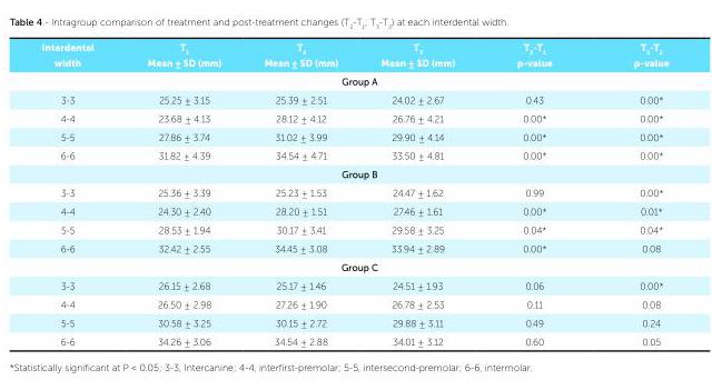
<table><thead><tr><td>Interdental width</td><td>T<sub>1</sub> Mean ± SD (mm)</td><td>T<sub>2</sub> Mean ± SD (mm)</td><td>T<sub>3</sub> Mean ± SD (mm)</td><td>T<sub>2</sub>-T<sub>1</sub> p-value</td><td>T<sub>3</sub>-T<sub>2</sub> p-value</td></tr></thead><tbody><tr><td colspan="6">Group A</td></tr><tr><td>3-3</td><td>25.25 ± 3.15</td><td>25.39 ± 2.51</td><td>24.02 ± 2.67</td><td>0.43</td><td>0.00*</td></tr><tr><td>4-4</td><td>23.68 ± 4.13</td><td>28.12 ± 4.12</td><td>26.76 ± 4.21</td><td>0.00*</td><td>0.00*</td></tr><tr><td>5-5</td><td>27.86 ± 3.74</td><td>31.02 ± 3.99</td><td>29.90 ± 4.14</td><td>0.00*</td><td>0.00*</td></tr><tr><td>6-6</td><td>31.82 ± 4.39</td><td>34.54 ± 4.71</td><td>33.50 ± 4.81</td><td>0.00*</td><td>0.00*</td></tr><tr><td colspan="6">Group B</td></tr><tr><td>3-3</td><td>25.36 ± 3.39</td><td>25.23 ± 1.53</td><td>24.47 ± 1.62</td><td>0.99</td><td>0.00*</td></tr><tr><td>4-4</td><td>24.30 ± 2.40</td><td>28.20 ± 1.51</td><td>27.46 ± 1.61</td><td>0.00*</td><td>0.01*</td></tr><tr><td>5-5</td><td>28.53 ± 1.94</td><td>30.17 ± 3.41</td><td>29.58 ± 3.25</td><td>0.04*</td><td>0.04*</td></tr><tr><td>6-6</td><td>32.42 ± 2.55</td><td>34.45 ± 3.08</td><td>33.94 ± 2.89</td><td>0.00*</td><td>0.08</td></tr><tr><td colspan="6">Group C</td></tr><tr><td>3-3</td><td>26.15 ± 2.68</td><td>25.17 ± 1.46</td><td>24.51 ± 1.93</td><td>0.06</td><td>0.00*</td></tr><tr><td>4-4</td><td>26.50 ± 2.98</td><td>27.26 ± 1.90</td><td>26.78 ± 2.53</td><td>0.11</td><td>0.08</td></tr><tr><td>5-5</td><td>30.58 ± 3.25</td><td>30.15 ± 2.72</td><td>29.88 ± 3.11</td><td>0.49</td><td>0.24</td></tr><tr><td>6-6</td><td>34.26 ± 3.06</td><td>34.54 ± 2.88</td><td>34.01 ± 3.12</td><td>0.60</td><td>0.05</td></tr></tbody></table>